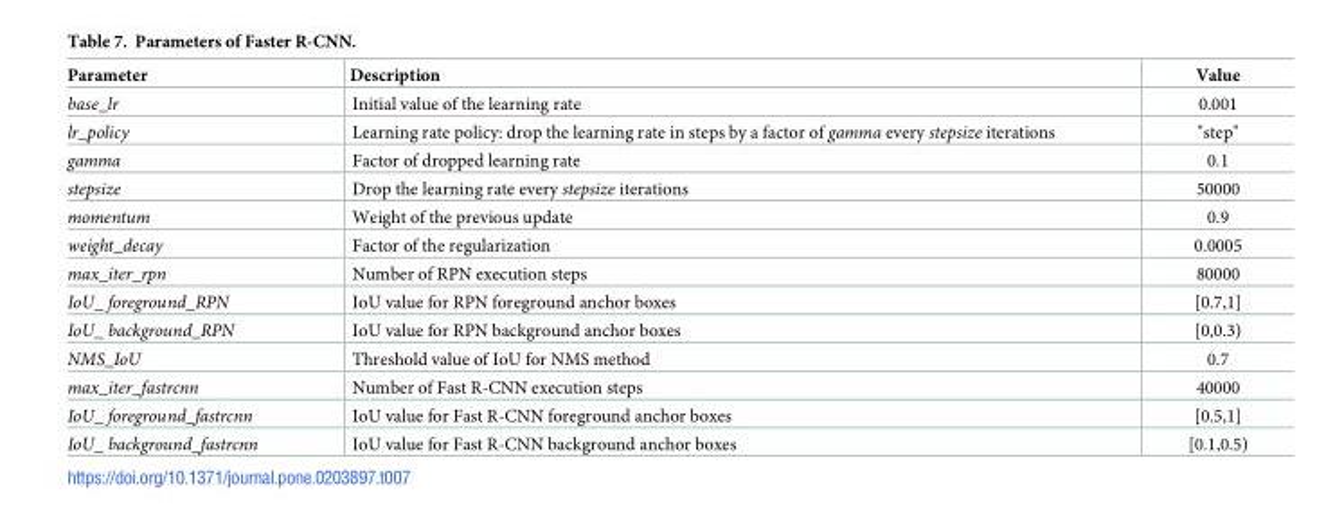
<table><thead><tr><td>Parameter</td><td>Description</td><td>Value</td></tr></thead><tbody><tr><td>base_lr</td><td>Initial value of the learning rate</td><td>0.001</td></tr><tr><td>lr_policy</td><td>Learning rate policy: drop the learning rate in steps by a factor of gamma every stepsize iterations</td><td>&quot;step&quot;</td></tr><tr><td>gamma</td><td>Factor of dropped learning rate</td><td>0.1</td></tr><tr><td>stepsize</td><td>Drop the learning rate every stepsize iterations</td><td>50000</td></tr><tr><td>momentum</td><td>Weight of the previous update</td><td>0.9</td></tr><tr><td>weight_decay</td><td>Factor of the regularization</td><td>0.0005</td></tr><tr><td>max_iter_rpn</td><td>Number of RPN execution steps</td><td>80000</td></tr><tr><td>IoU_ foreground_RPN</td><td>IoU value for RPN foreground anchor boxes</td><td>[0.7,1]</td></tr><tr><td>IoU_ background_RPN</td><td>IoU value for RPN background anchor boxes</td><td>[0,0.3)</td></tr><tr><td>NMS_IoU</td><td>Threshold value of IoU for NMS method</td><td>0.7</td></tr><tr><td>max_iter_fastrcnn</td><td>Number of Fast R-CNN execution steps</td><td>40000</td></tr><tr><td>IoU_ foreground_fastrcnn</td><td>IoU value for Fast R-CNN foreground anchor boxes</td><td>[0.5,1]</td></tr><tr><td>IoU_ background_fastrcnn</td><td>IoU value for Fast R-CNN background anchor boxes</td><td>[0.1,0.5)</td></tr></tbody></table>